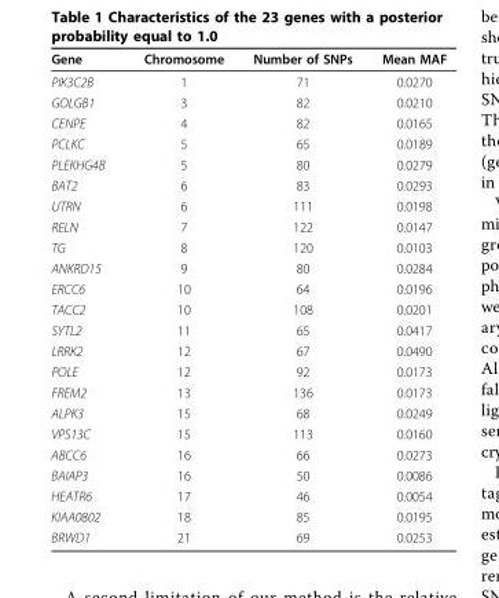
<table><thead><tr><td>Gene</td><td>Chromosome</td><td>Number of SNPs</td><td>Mean MAF</td></tr></thead><tbody><tr><td>PIK3C2B</td><td>1</td><td>71</td><td>0.0270</td></tr><tr><td>GOLGB1</td><td>3</td><td>82</td><td>0.0210</td></tr><tr><td>CENPE</td><td>4</td><td>82</td><td>0.0165</td></tr><tr><td>PCLKC</td><td>5</td><td>65</td><td>0.0189</td></tr><tr><td>PLEKHG4B</td><td>5</td><td>80</td><td>0.0279</td></tr><tr><td>BAT2</td><td>6</td><td>83</td><td>0.0293</td></tr><tr><td>UTRN</td><td>6</td><td>111</td><td>0.0198</td></tr><tr><td>RELN</td><td>7</td><td>122</td><td>0.0147</td></tr><tr><td>TG</td><td>8</td><td>120</td><td>0.0103</td></tr><tr><td>ANKRD15</td><td>9</td><td>80</td><td>0.0284</td></tr><tr><td>ERCC6</td><td>10</td><td>64</td><td>0.0196</td></tr><tr><td>TACC2</td><td>10</td><td>108</td><td>0.0201</td></tr><tr><td>SYTL2</td><td>11</td><td>65</td><td>0.0417</td></tr><tr><td>LRRK2</td><td>12</td><td>67</td><td>0.0490</td></tr><tr><td>POLE</td><td>12</td><td>92</td><td>0.0173</td></tr><tr><td>FREM2</td><td>13</td><td>136</td><td>0.0173</td></tr><tr><td>ALPK3</td><td>15</td><td>68</td><td>0.0249</td></tr><tr><td>VPS13C</td><td>15</td><td>113</td><td>0.0160</td></tr><tr><td>ABCC6</td><td>16</td><td>66</td><td>0.0273</td></tr><tr><td>BAIAP3</td><td>16</td><td>50</td><td>0.0086</td></tr><tr><td>HEATR6</td><td>17</td><td>46</td><td>0.0054</td></tr><tr><td>KIAA0802</td><td>18</td><td>85</td><td>0.0195</td></tr><tr><td>BRWD1</td><td>21</td><td>69</td><td>0.0253</td></tr></tbody></table>